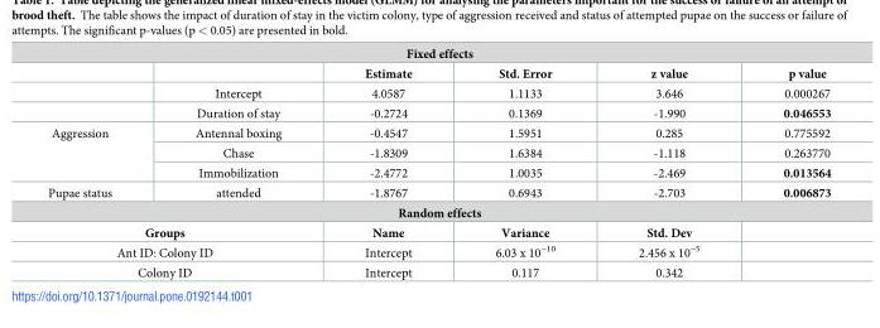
<table><tbody><tr><td colspan="6">Fixed effects</td></tr><tr><td></td><td></td><td>Estimate</td><td>Std. Error</td><td>z value</td><td>p value</td></tr><tr><td></td><td>Intercept</td><td>4.0587</td><td>1.1133</td><td>3.646</td><td>0.000267</td></tr><tr><td></td><td>Duration of stay</td><td>-0.2724</td><td>0.1369</td><td>-1.990</td><td>0.046553</td></tr><tr><td rowspan="3">Aggression</td><td>Antennal boxing</td><td>-0.4547</td><td>1.5951</td><td>0.285</td><td>0.775592</td></tr><tr><td>Chase</td><td>-1.8309</td><td>1.6384</td><td>-1.118</td><td>0.263770</td></tr><tr><td>Immobilization</td><td>-2.4772</td><td>1.0035</td><td>-2.469</td><td>0.013564</td></tr><tr><td>Pupae status</td><td>attended</td><td>-1.8767</td><td>0.6943</td><td>-2.703</td><td>0.006873</td></tr><tr><td colspan="6">Random effects</td></tr><tr><td colspan="2">Groups</td><td>Name</td><td>Variance</td><td>Std. Dev</td><td></td></tr><tr><td colspan="2">Ant ID: Colony ID</td><td>Intercept</td><td>6.03 x 10<sup>−10</sup></td><td>2.456 x 10<sup>−5</sup></td><td></td></tr><tr><td colspan="2">Colony ID</td><td>Intercept</td><td>0.117</td><td>0.342</td><td></td></tr></tbody></table>